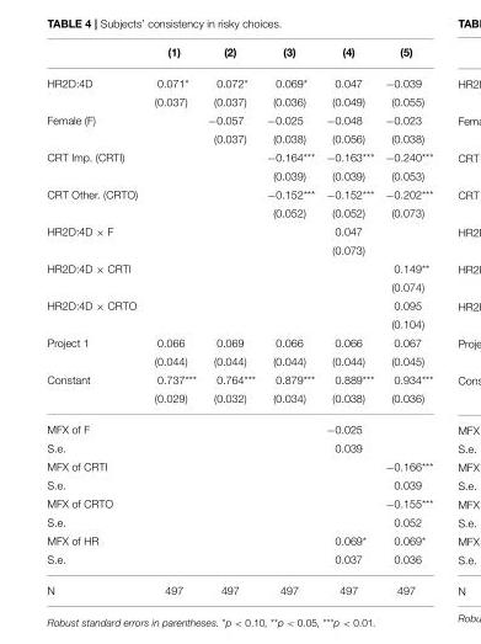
<table><thead><tr><td></td><td>(1)</td><td>(2)</td><td>(3)</td><td>(4)</td><td>(5)</td></tr></thead><tbody><tr><td rowspan="2">HR2D:4D</td><td>0.071*</td><td>0.072*</td><td>0.069*</td><td>0.047</td><td>−0.039</td></tr><tr><td>(0.037)</td><td>(0.037)</td><td>(0.036)</td><td>(0.049)</td><td>(0.055)</td></tr><tr><td rowspan="2">Female (F)</td><td></td><td>−0.057</td><td>−0.025</td><td>−0.048</td><td>−0.023</td></tr><tr><td></td><td>(0.037)</td><td>(0.038)</td><td>(0.056)</td><td>(0.038)</td></tr><tr><td rowspan="2">CRT Imp. (CRTI)</td><td></td><td></td><td>−0.164***</td><td>−0.163***</td><td>−0.240***</td></tr><tr><td></td><td></td><td>(0.039)</td><td>(0.039)</td><td>(0.053)</td></tr><tr><td rowspan="2">CRT Other. (CRTO)</td><td></td><td></td><td>−0.152***</td><td>−0.152***</td><td>−0.202***</td></tr><tr><td></td><td></td><td>(0.052)</td><td>(0.052)</td><td>(0.073)</td></tr><tr><td rowspan="2">HR2D:4D × F</td><td></td><td></td><td></td><td>0.047</td><td></td></tr><tr><td></td><td></td><td></td><td>(0.073)</td><td></td></tr><tr><td rowspan="2">HR2D:4D × CRTI</td><td></td><td></td><td></td><td></td><td>0.149**</td></tr><tr><td></td><td></td><td></td><td></td><td>(0.074)</td></tr><tr><td rowspan="2">HR2D:4D × CRTO</td><td></td><td></td><td></td><td></td><td>0.095</td></tr><tr><td></td><td></td><td></td><td></td><td>(0.104)</td></tr><tr><td rowspan="2">Project 1</td><td>0.066</td><td>0.069</td><td>0.066</td><td>0.066</td><td>0.067</td></tr><tr><td>(0.044)</td><td>(0.044)</td><td>(0.044)</td><td>(0.044)</td><td>(0.045)</td></tr><tr><td rowspan="2">Constant</td><td>0.737***</td><td>0.764***</td><td>0.879***</td><td>0.889***</td><td>0.934***</td></tr><tr><td>(0.029)</td><td>(0.032)</td><td>(0.034)</td><td>(0.038)</td><td>(0.036)</td></tr><tr><td>MFX of F</td><td></td><td></td><td></td><td>−0.025</td><td></td></tr><tr><td>S.e.</td><td></td><td></td><td></td><td>0.039</td><td></td></tr><tr><td>MFX of CRTI</td><td></td><td></td><td></td><td></td><td>−0.166***</td></tr><tr><td>S.e.</td><td></td><td></td><td></td><td></td><td>0.039</td></tr><tr><td>MFX of CRTO</td><td></td><td></td><td></td><td></td><td>−0.155***</td></tr><tr><td>S.e.</td><td></td><td></td><td></td><td></td><td>0.052</td></tr><tr><td>MFX of HR</td><td></td><td></td><td></td><td>0.069*</td><td>0.069*</td></tr><tr><td>S.e.</td><td></td><td></td><td></td><td>0.037</td><td>0.036</td></tr><tr><td>N</td><td>497</td><td>497</td><td>497</td><td>497</td><td>497</td></tr></tbody></table>